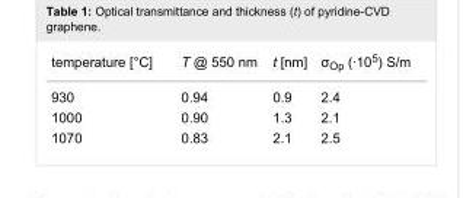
<table><tbody><tr><td>temperature [°C]</td><td>T @ 550 nm</td><td>t [nm]</td><td>σ<sub>Op</sub> (·10<sup>5</sup>) S/m</td></tr><tr><td>930</td><td>0.94</td><td>0.9</td><td>2.4</td></tr><tr><td>1000</td><td>0.90</td><td>1.3</td><td>2.1</td></tr><tr><td>1070</td><td>0.83</td><td>2.1</td><td>2.5</td></tr></tbody></table>